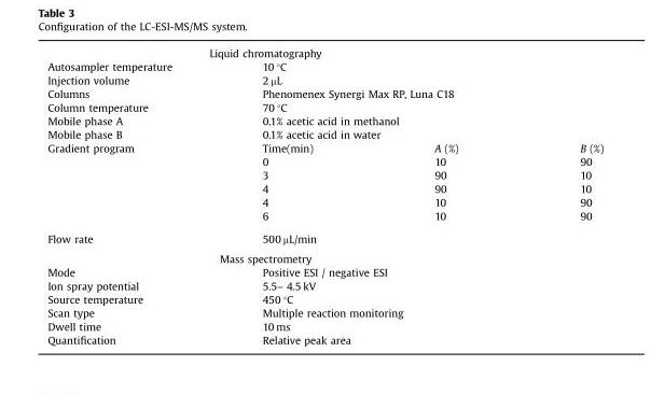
<table><tbody><tr><td colspan="4">Liquid chromatography</td></tr><tr><td>Autosampler temperature</td><td colspan="3">10 °C</td></tr><tr><td>Injection volume</td><td colspan="3">2 µL</td></tr><tr><td>Columns</td><td colspan="3">Phenomenex Synergi Max RP, Luna C18</td></tr><tr><td>Column temperature</td><td colspan="3">70 °C</td></tr><tr><td>Mobile phase A</td><td colspan="3">0.1% acetic acid in methanol</td></tr><tr><td>Mobile phase B</td><td colspan="3">0.1% acetic acid in water</td></tr><tr><td rowspan="6">Gradient program</td><td>Time(min)</td><td>A (%)</td><td>B (%)</td></tr><tr><td>0</td><td>10</td><td>90</td></tr><tr><td>3</td><td>90</td><td>10</td></tr><tr><td>4</td><td>90</td><td>10</td></tr><tr><td>4</td><td>10</td><td>90</td></tr><tr><td>6</td><td>10</td><td>90</td></tr><tr><td>Flow rate</td><td colspan="3">500 µL/min</td></tr><tr><td colspan="4">Mass spectrometry</td></tr><tr><td>Mode</td><td colspan="3">Positive ESI / negative ESI</td></tr><tr><td>Ion spray potential</td><td colspan="3">5.5– 4.5 kV</td></tr><tr><td>Source temperature</td><td colspan="3">450 °C</td></tr><tr><td>Scan type</td><td colspan="3">Multiple reaction monitoring</td></tr><tr><td>Dwell time</td><td colspan="3">10 ms</td></tr><tr><td>Quantification</td><td colspan="3">Relative peak area</td></tr></tbody></table>